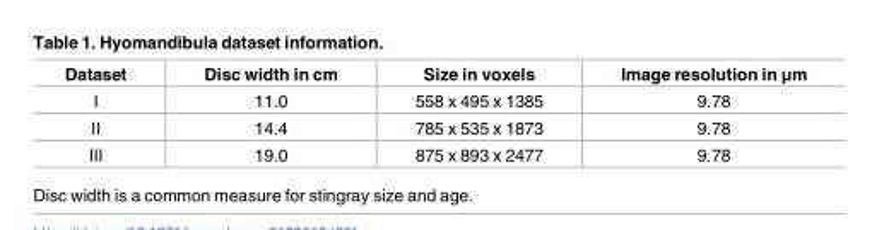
<table><thead><tr><td>Dataset</td><td>Disc width in cm</td><td>Size in voxels</td><td>Image resolution in μm</td></tr></thead><tbody><tr><td>I</td><td>11.0</td><td>558 x 495 x 1385</td><td>9.78</td></tr><tr><td>II</td><td>14.4</td><td>785 x 535 x 1873</td><td>9.78</td></tr><tr><td>III</td><td>19.0</td><td>875 x 893 x 2477</td><td>9.78</td></tr></tbody></table>